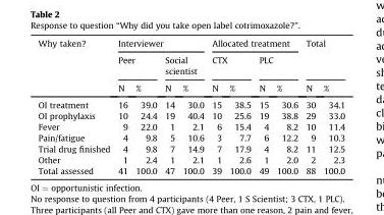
<table><thead><tr><td rowspan="3">Why taken?</td><td colspan="4">Interviewer</td><td colspan="4">Allocated treatment</td><td rowspan="2" colspan="2">Total</td></tr><tr><td colspan="2">Peer</td><td colspan="2">Social scientist</td><td colspan="2">CTX</td><td colspan="2">PLC</td></tr><tr><td>N</td><td>%</td><td>N</td><td>%</td><td>N</td><td>%</td><td>N</td><td>%</td><td>N</td><td>%</td></tr></thead><tbody><tr><td>OI treatment</td><td>16</td><td>39.0</td><td>14</td><td>30.0</td><td>15</td><td>38.5</td><td>15</td><td>30.6</td><td>30</td><td>34.1</td></tr><tr><td>OI prophylaxis</td><td>10</td><td>24.4</td><td>19</td><td>40.4</td><td>10</td><td>25.6</td><td>19</td><td>38.8</td><td>29</td><td>33.0</td></tr><tr><td>Fever</td><td>9</td><td>22.0</td><td>1</td><td>2.1</td><td>6</td><td>15.4</td><td>4</td><td>8.2</td><td>10</td><td>11.4</td></tr><tr><td>Pain/fatigue</td><td>4</td><td>9.8</td><td>5</td><td>10.6</td><td>3</td><td>7.7</td><td>6</td><td>12.2</td><td>9</td><td>10.3</td></tr><tr><td>Trial drug finished</td><td>4</td><td>9.8</td><td>7</td><td>14.9</td><td>7</td><td>17.9</td><td>4</td><td>8.2</td><td>11</td><td>12.5</td></tr><tr><td>Other</td><td>1</td><td>2.4</td><td>1</td><td>2.1</td><td>1</td><td>2.6</td><td>1</td><td>2.0</td><td>2</td><td>2.3</td></tr><tr><td>Total assessed</td><td>41</td><td>100.0</td><td>47</td><td>100.0</td><td>39</td><td>100.0</td><td>49</td><td>100.0</td><td>88</td><td>100.0</td></tr></tbody></table>